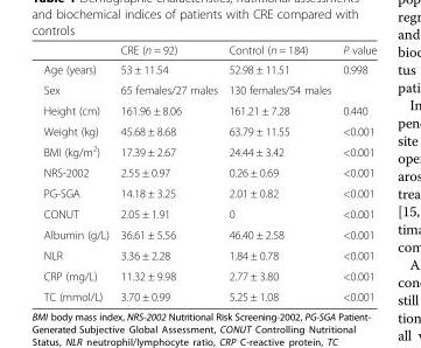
<table><thead><tr><td></td><td>CRE (n = 92)</td><td>Control (n = 184)</td><td>P value</td></tr></thead><tbody><tr><td>Age (years)</td><td>53 ± 11.54</td><td>52.98 ± 11.51</td><td>0.998</td></tr><tr><td>Sex</td><td>65 females/27 males</td><td>130 females/54 males</td><td></td></tr><tr><td>Height (cm)</td><td>161.96 ± 8.06</td><td>161.21 ± 7.28</td><td>0.440</td></tr><tr><td>Weight (kg)</td><td>45.68 ± 8.68</td><td>63.79 ± 11.55</td><td>&lt;0.001</td></tr><tr><td>BMI (kg/m<sup>2</sup>)</td><td>17.39 ± 2.67</td><td>24.44 ± 3.42</td><td>&lt;0.001</td></tr><tr><td>NRS-2002</td><td>2.55 ± 0.97</td><td>0.26 ± 0.69</td><td>&lt;0.001</td></tr><tr><td>PG-SGA</td><td>14.18 ± 3.25</td><td>2.01 ± 0.82</td><td>&lt;0.001</td></tr><tr><td>CONUT</td><td>2.05 ± 1.91</td><td>0</td><td>&lt;0.001</td></tr><tr><td>Albumin (g/L)</td><td>36.61 ± 5.56</td><td>46.40 ± 2.58</td><td>&lt;0.001</td></tr><tr><td>NLR</td><td>3.36 ± 2.28</td><td>1.84 ± 0.78</td><td>&lt;0.001</td></tr><tr><td>CRP (mg/L)</td><td>11.32 ± 9.98</td><td>2.77 ± 3.80</td><td>&lt;0.001</td></tr><tr><td>TC (mmol/L)</td><td>3.70 ± 0.99</td><td>5.25 ± 1.08</td><td>&lt;0.001</td></tr></tbody></table>